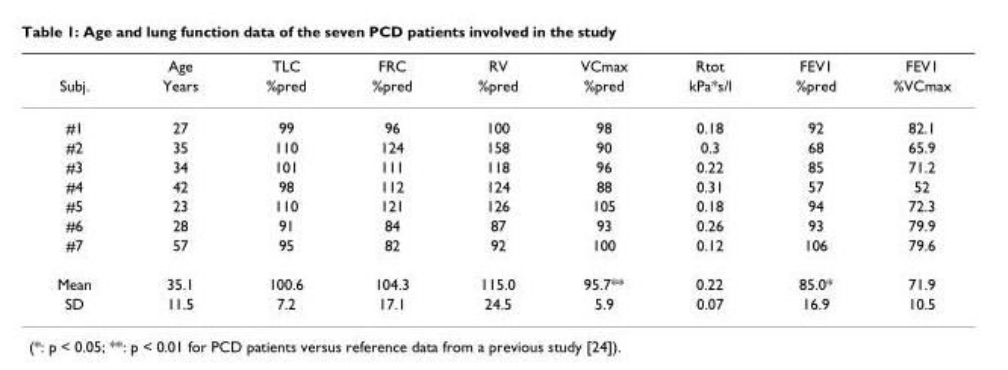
<table><thead><tr><td rowspan="2">Subj.</td><td rowspan="2">Age Years</td><td rowspan="2">TLC %pred</td><td rowspan="2">FRC %pred</td><td rowspan="2">RV %pred</td><td rowspan="2">VCmax %pred</td><td rowspan="2">Rtot kPa*s/l</td><td rowspan="2">FEV1 %pred</td><td rowspan="2">FEV1 %VCmax</td></tr><tr></tr></thead><tbody><tr><td>#1</td><td>27</td><td>99</td><td>96</td><td>100</td><td>98</td><td>0.18</td><td>92</td><td>82.1</td></tr><tr><td>#2</td><td>35</td><td>110</td><td>124</td><td>158</td><td>90</td><td>0.3</td><td>68</td><td>65.9</td></tr><tr><td>#3</td><td>34</td><td>101</td><td>111</td><td>118</td><td>96</td><td>0.22</td><td>85</td><td>71.2</td></tr><tr><td>#4</td><td>42</td><td>98</td><td>112</td><td>124</td><td>88</td><td>0.31</td><td>57</td><td>52</td></tr><tr><td>#5</td><td>23</td><td>110</td><td>121</td><td>126</td><td>105</td><td>0.18</td><td>94</td><td>72.3</td></tr><tr><td>#6</td><td>28</td><td>91</td><td>84</td><td>87</td><td>93</td><td>0.26</td><td>93</td><td>79.9</td></tr><tr><td>#7</td><td>57</td><td>95</td><td>82</td><td>92</td><td>100</td><td>0.12</td><td>106</td><td>79.6</td></tr><tr><td>Mean</td><td>35.1</td><td>100.6</td><td>104.3</td><td>115.0</td><td>95.7**</td><td>0.22</td><td>85.0*</td><td>71.9</td></tr><tr><td>SD</td><td>11.5</td><td>7.2</td><td>17.1</td><td>24.5</td><td>5.9</td><td>0.07</td><td>16.9</td><td>10.5</td></tr></tbody></table>